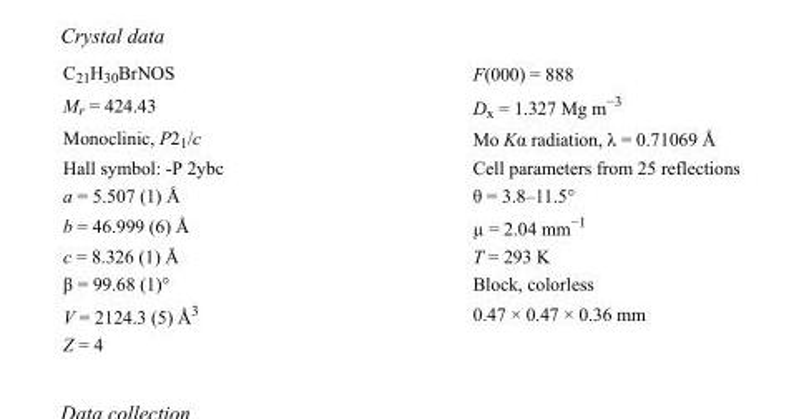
<table><tbody><tr><td>C<sub>21</sub>H<sub>30</sub>BrNOS</td><td>F(000) = 888</td></tr><tr><td>M<sub>r</sub> = 424.43</td><td>D<sub>x</sub> = 1.327 Mg m<sup>−3</sup></td></tr><tr><td>Monoclinic, P2<sub>1</sub>/c</td><td>Mo Kα radiation, λ = 0.71069 Å</td></tr><tr><td>Hall symbol: -P 2ybc</td><td>Cell parameters from 25 reflections</td></tr><tr><td>a = 5.507 (1) Å</td><td>θ = 3.8–11.5°</td></tr><tr><td>b = 46.999 (6) Å</td><td>µ = 2.04 mm<sup>−1</sup></td></tr><tr><td>c = 8.326 (1) Å</td><td>T = 293 K</td></tr><tr><td>β = 99.68 (1)°</td><td>Block, colorless</td></tr><tr><td>V = 2124.3 (5) Å<sup>3</sup></td><td>0.47 × 0.47 × 0.36 mm</td></tr><tr><td>Z = 4</td><td></td></tr></tbody></table>